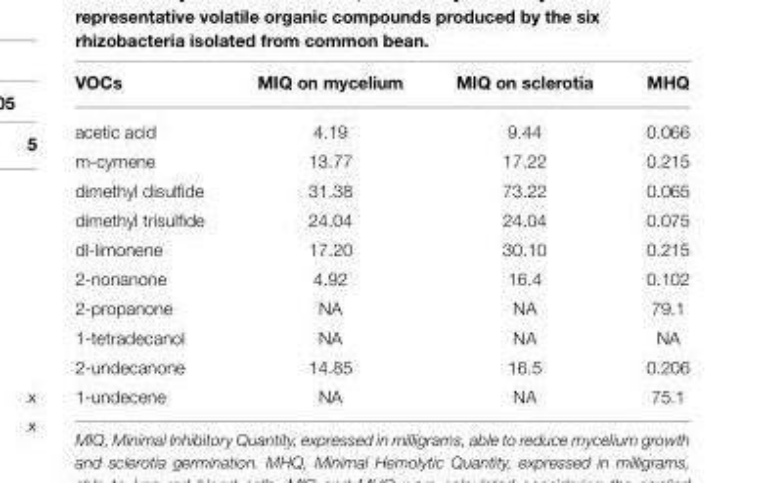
<table><thead><tr><td>VOCs</td><td>MIQ on mycelium</td><td>MIQ on sclerotia</td><td>MHQ</td></tr></thead><tbody><tr><td>acetic acid</td><td>4.19</td><td>9.44</td><td>0.066</td></tr><tr><td>m-cymene</td><td>13.77</td><td>17.22</td><td>0.215</td></tr><tr><td>dimethyl disulfide</td><td>31.38</td><td>73.22</td><td>0.065</td></tr><tr><td>dimethyl trisulfide</td><td>24.04</td><td>24.04</td><td>0.075</td></tr><tr><td>dl-limonene</td><td>17.20</td><td>30.10</td><td>0.215</td></tr><tr><td>2-nonanone</td><td>4.92</td><td>16.4</td><td>0.102</td></tr><tr><td>2-propanone</td><td>NA</td><td>NA</td><td>79.1</td></tr><tr><td>1-tetradecanol</td><td>NA</td><td>NA</td><td>NA</td></tr><tr><td>2-undecanone</td><td>14.85</td><td>16.5</td><td>0.206</td></tr><tr><td>1-undecene</td><td>NA</td><td>NA</td><td>75.1</td></tr></tbody></table>